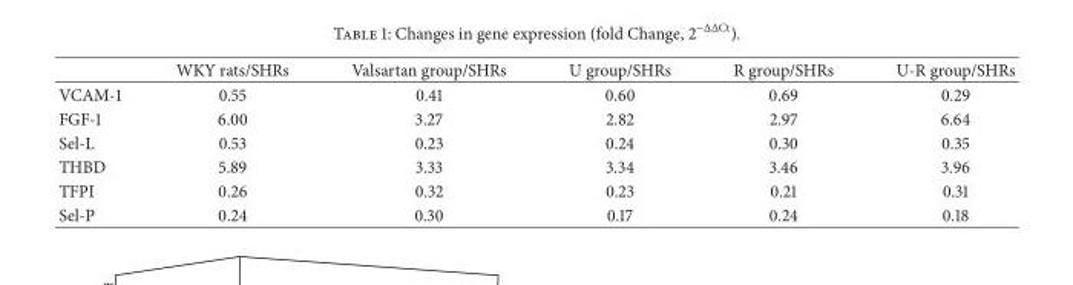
<table><thead><tr><td></td><td>WKY rats/SHRs</td><td>Valsartan group/SHRs</td><td>U group/SHRs</td><td>R group/SHRs</td><td>U-R group/SHRs</td></tr></thead><tbody><tr><td>VCAM-1</td><td>0.55</td><td>0.41</td><td>0.60</td><td>0.69</td><td>0.29</td></tr><tr><td>FGF-1</td><td>6.00</td><td>3.27</td><td>2.82</td><td>2.97</td><td>6.64</td></tr><tr><td>Sel-L</td><td>0.53</td><td>0.23</td><td>0.24</td><td>0.30</td><td>0.35</td></tr><tr><td>THBD</td><td>5.89</td><td>3.33</td><td>3.34</td><td>3.46</td><td>3.96</td></tr><tr><td>TFPI</td><td>0.26</td><td>0.32</td><td>0.23</td><td>0.21</td><td>0.31</td></tr><tr><td>Sel-P</td><td>0.24</td><td>0.30</td><td>0.17</td><td>0.24</td><td>0.18</td></tr></tbody></table>